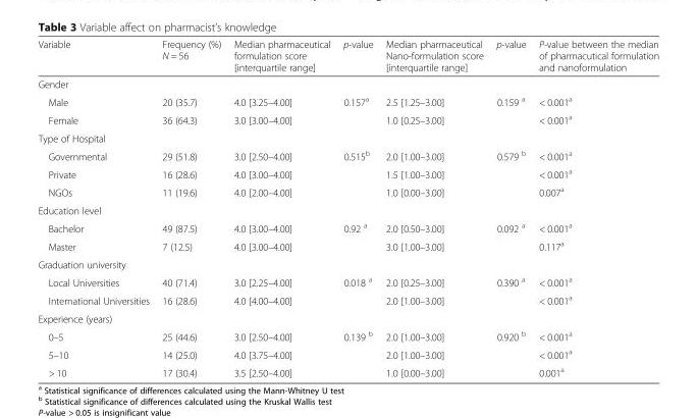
<table><thead><tr><td>Variable</td><td>Frequency (%) N = 56</td><td>Median pharmaceutical formulation score [interquartile range]</td><td>p-value</td><td>Median pharmaceutical Nano-formulation score [interquartile range]</td><td>p-value</td><td>P-value between the median of pharmacutical formulation and nanoformulation</td></tr></thead><tbody><tr><td colspan="7">Gender</td></tr><tr><td>Male</td><td>20 (35.7)</td><td>4.0 [3.25–4.00]</td><td>0.157<sup>a</sup></td><td>2.5 [1.25–3.00]</td><td>0.159 <sup>a</sup></td><td>&lt; 0.001<sup>a</sup></td></tr><tr><td>Female</td><td>36 (64.3)</td><td>3.0 [3.00–4.00]</td><td></td><td>1.0 [0.25–3.00]</td><td></td><td>&lt; 0.001<sup>a</sup></td></tr><tr><td colspan="7">Type of Hospital</td></tr><tr><td>Governmental</td><td>29 (51.8)</td><td>3.0 [2.50–4.00]</td><td>0.515<sup>b</sup></td><td>2.0 [1.00–3.00]</td><td>0.579 <sup>b</sup></td><td>&lt; 0.001<sup>a</sup></td></tr><tr><td>Private</td><td>16 (28.6)</td><td>4.0 [3.00–4.00]</td><td></td><td>1.5 [1.00–3.00]</td><td></td><td>&lt; 0.001<sup>a</sup></td></tr><tr><td>NGOs</td><td>11 (19.6)</td><td>4.0 [2.00–4.00]</td><td></td><td>1.0 [0.00–3.00]</td><td></td><td>0.007<sup>a</sup></td></tr><tr><td colspan="7">Education level</td></tr><tr><td>Bachelor</td><td>49 (87.5)</td><td>4.0 [3.00–4.00]</td><td>0.92 <sup>a</sup></td><td>2.0 [0.50–3.00]</td><td>0.092 <sup>a</sup></td><td>&lt; 0.001<sup>a</sup></td></tr><tr><td>Master</td><td>7 (12.5)</td><td>4.0 [3.00–4.00]</td><td></td><td>3.0 [1.00–3.00]</td><td></td><td>0.117<sup>a</sup></td></tr><tr><td colspan="7">Graduation university</td></tr><tr><td>Local Universities</td><td>40 (71.4)</td><td>3.0 [2.25–4.00]</td><td>0.018 <sup>a</sup></td><td>2.0 [0.25–3.00]</td><td>0.390 <sup>a</sup></td><td>&lt; 0.001<sup>a</sup></td></tr><tr><td>International Universities</td><td>16 (28.6)</td><td>4.0 [4.00–4.00]</td><td></td><td>2.0 [1.00–3.00]</td><td></td><td>&lt; 0.001<sup>a</sup></td></tr><tr><td colspan="7">Experience (years)</td></tr><tr><td>0–5</td><td>25 (44.6)</td><td>3.0 [2.50–4.00]</td><td>0.139 <sup>b</sup></td><td>2.0 [1.00–3.00]</td><td>0.920 <sup>b</sup></td><td>&lt; 0.001<sup>a</sup></td></tr><tr><td>5–10</td><td>14 (25.0)</td><td>4.0 [3.75–4.00]</td><td></td><td>2.0 [1.00–3.00]</td><td></td><td>&lt; 0.001<sup>a</sup></td></tr><tr><td>&gt; 10</td><td>17 (30.4)</td><td>3.5 [2.50–4.00]</td><td></td><td>1.0 [0.00–3.00]</td><td></td><td>0.001<sup>a</sup></td></tr></tbody></table>